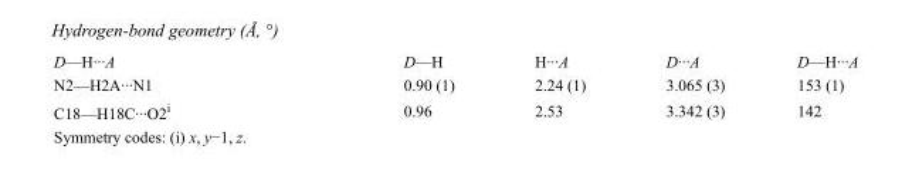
<table><tbody><tr><td>D—H···A</td><td>D—H</td><td>H···A</td><td>D···A</td><td>D—H···A</td></tr><tr><td>N2—H2A···N1</td><td>0.90 (1)</td><td>2.24 (1)</td><td>3.065 (3)</td><td>153 (1)</td></tr><tr><td>C18—H18C···O2<sup>i</sup></td><td>0.96</td><td>2.53</td><td>3.342 (3)</td><td>142</td></tr></tbody></table>